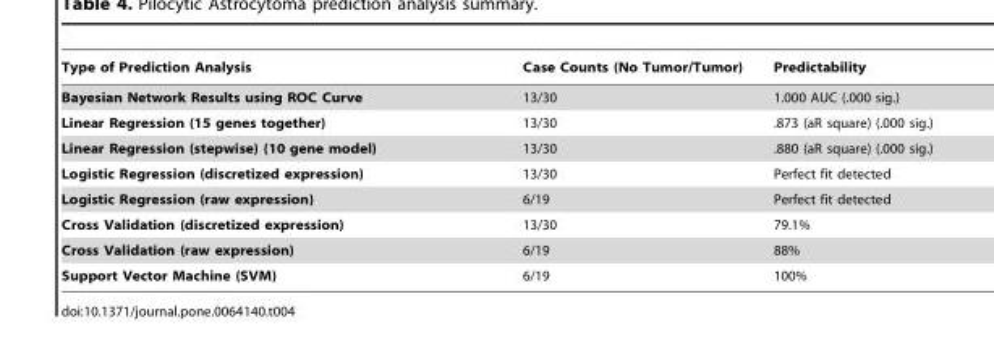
<table><thead><tr><td>Type of Prediction Analysis</td><td>Case Counts (No Tumor/Tumor)</td><td>Predictability</td></tr></thead><tbody><tr><td>Bayesian Network Results using ROC Curve</td><td>13/30</td><td>1.000 AUC (.000 sig.)</td></tr><tr><td>Linear Regression (15 genes together)</td><td>13/30</td><td>.873 (aR square) (.000 sig.)</td></tr><tr><td>Linear Regression (stepwise) (10 gene model)</td><td>13/30</td><td>.880 (aR square) (.000 sig.)</td></tr><tr><td>Logistic Regression (discretized expression)</td><td>13/30</td><td>Perfect fit detected</td></tr><tr><td>Logistic Regression (raw expression)</td><td>6/19</td><td>Perfect fit detected</td></tr><tr><td>Cross Validation (discretized expression)</td><td>13/30</td><td>79.1%</td></tr><tr><td>Cross Validation (raw expression)</td><td>6/19</td><td>88%</td></tr><tr><td>Support Vector Machine (SVM)</td><td>6/19</td><td>100%</td></tr></tbody></table>